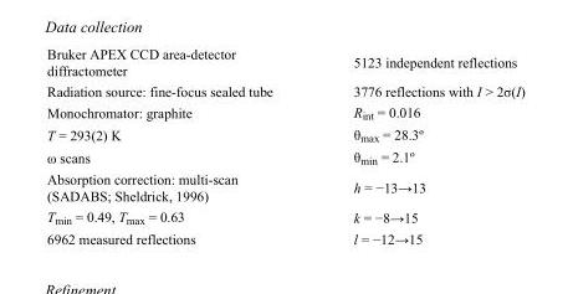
<table><tbody><tr><td>Bruker APEX CCD area-detector diffractometer</td><td>5123 independent reflections</td></tr><tr><td>Radiation source: fine-focus sealed tube</td><td>3776 reflections with I &gt; 2σ(I)</td></tr><tr><td>Monochromator: graphite</td><td>R<sub>int</sub> = 0.016</td></tr><tr><td>T = 293(2) K</td><td>θ<sub>max</sub> = 28.3º</td></tr><tr><td>ω scans</td><td>θ<sub>min</sub> = 2.1º</td></tr><tr><td>Absorption correction: multi-scan (SADABS; Sheldrick, 1996)</td><td>h = −13→13</td></tr><tr><td>T<sub>min</sub> = 0.49, T<sub>max</sub> = 0.63</td><td>k = −8→15</td></tr><tr><td>6962 measured reflections</td><td>l = −12→15</td></tr></tbody></table>